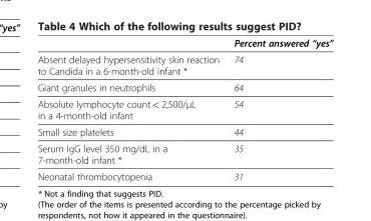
<table><thead><tr><td></td><td>Percent answered “yes”</td></tr></thead><tbody><tr><td>Absent delayed hypersensitivity skin reaction to Candida in a 6-month-old infant *</td><td>74</td></tr><tr><td>Giant granules in neutrophils</td><td>64</td></tr><tr><td>Absolute lymphocyte count &lt; 2,500/μL in a 4-month-old infant</td><td>54</td></tr><tr><td>Small size platelets</td><td>44</td></tr><tr><td>Serum IgG level 350 mg/dL in a 7-month-old infant *</td><td>35</td></tr><tr><td>Neonatal thrombocytopenia</td><td>31</td></tr></tbody></table>